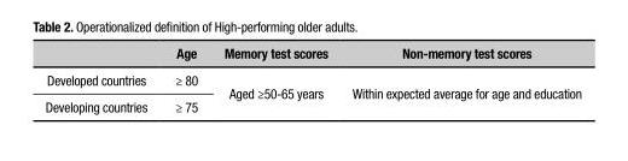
<table><thead><tr><td></td><td>Age</td><td>Memory test scores</td><td>Non-memory test scores</td></tr></thead><tbody><tr><td>Developed countries</td><td>≥ 80</td><td rowspan="2">Aged ≥50-65 years</td><td rowspan="2">Within expected average for age and education</td></tr><tr><td>Developing countries</td><td>≥ 75</td></tr></tbody></table>